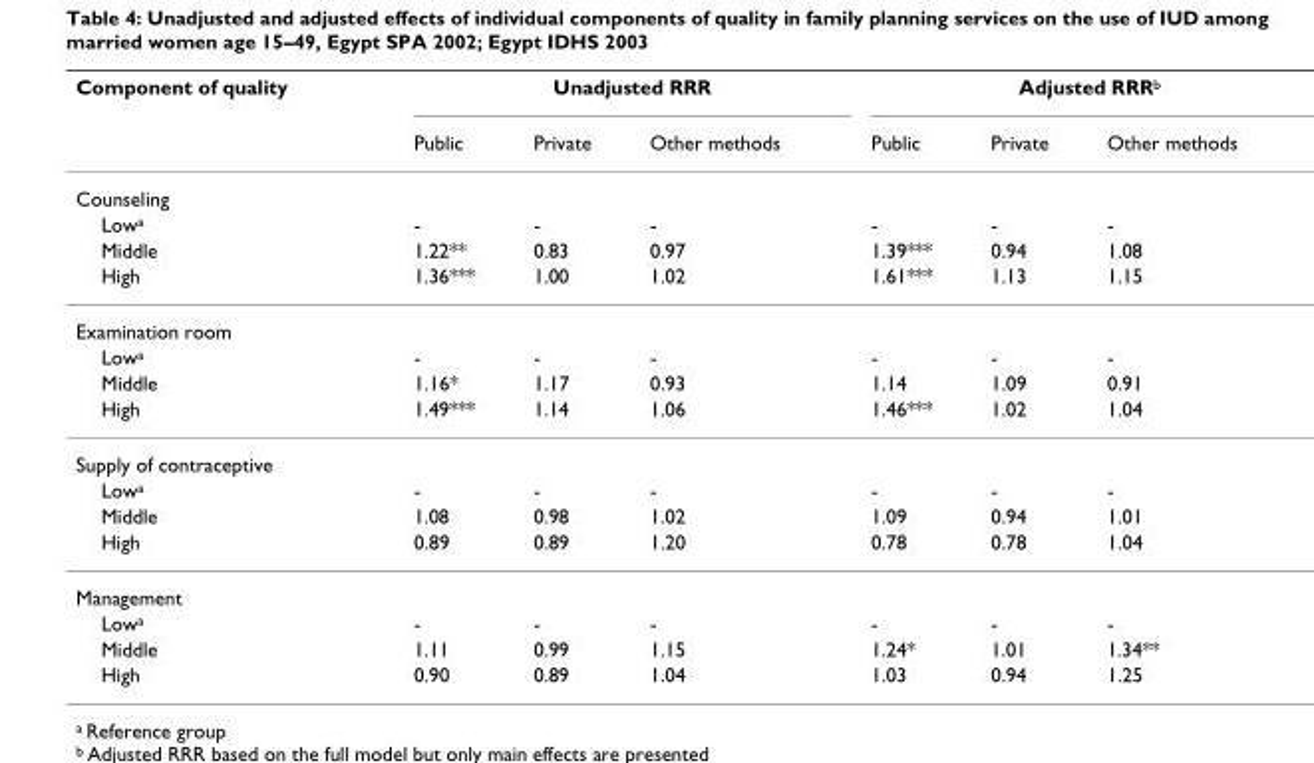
<table><thead><tr><td rowspan="2">Component of quality</td><td colspan="3">Unadjusted RRR</td><td colspan="3">Adjusted RRRb</td></tr><tr><td>Public</td><td>Private</td><td>Other methods</td><td>Public</td><td>Private</td><td>Other methods</td></tr></thead><tbody><tr><td colspan="7">Counseling</td></tr><tr><td>Lowa</td><td>-</td><td>-</td><td>-</td><td>-</td><td>-</td><td>-</td></tr><tr><td>Middle</td><td>1.22**</td><td>0.83</td><td>0.97</td><td>1.39***</td><td>0.94</td><td>1.08</td></tr><tr><td>High</td><td>1.36***</td><td>1.00</td><td>1.02</td><td>1.61***</td><td>1.13</td><td>1.15</td></tr><tr><td colspan="7">Examination room</td></tr><tr><td>Lowa</td><td>-</td><td>-</td><td>-</td><td>-</td><td>-</td><td>-</td></tr><tr><td>Middle</td><td>1.16*</td><td>1.17</td><td>0.93</td><td>1.14</td><td>1.09</td><td>0.91</td></tr><tr><td>High</td><td>1.49***</td><td>1.14</td><td>1.06</td><td>1.46***</td><td>1.02</td><td>1.04</td></tr><tr><td colspan="7">Supply of contraceptive</td></tr><tr><td>Lowa</td><td>-</td><td>-</td><td>-</td><td>-</td><td>-</td><td>-</td></tr><tr><td>Middle</td><td>1.08</td><td>0.98</td><td>1.02</td><td>1.09</td><td>0.94</td><td>1.01</td></tr><tr><td>High</td><td>0.89</td><td>0.89</td><td>1.20</td><td>0.78</td><td>0.78</td><td>1.04</td></tr><tr><td colspan="7">Management</td></tr><tr><td>Lowa</td><td>-</td><td>-</td><td>-</td><td>-</td><td>-</td><td>-</td></tr><tr><td>Middle</td><td>1.11</td><td>0.99</td><td>1.15</td><td>1.24*</td><td>1.01</td><td>1.34**</td></tr><tr><td>High</td><td>0.90</td><td>0.89</td><td>1.04</td><td>1.03</td><td>0.94</td><td>1.25</td></tr></tbody></table>